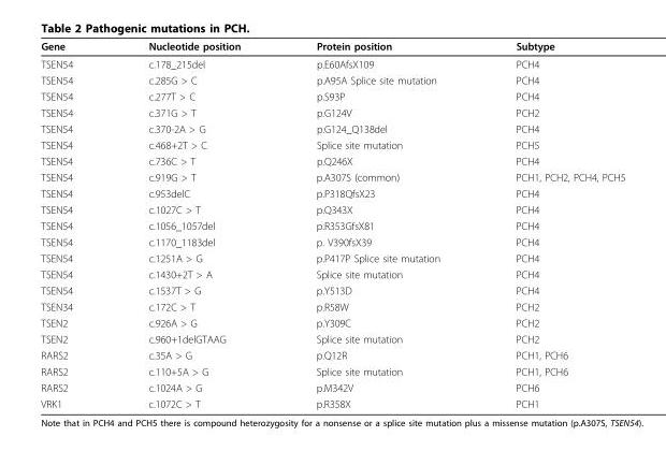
<table><thead><tr><td>Gene</td><td>Nucleotide position</td><td>Protein position</td><td>Subtype</td></tr></thead><tbody><tr><td>TSEN54</td><td>c.178_215del</td><td>p.E60AfsX109</td><td>PCH4</td></tr><tr><td>TSEN54</td><td>c.285G &gt; C</td><td>p.A95A Splice site mutation</td><td>PCH4</td></tr><tr><td>TSEN54</td><td>c.277T &gt; C</td><td>p.S93P</td><td>PCH4</td></tr><tr><td>TSEN54</td><td>c.371G &gt; T</td><td>p.G124V</td><td>PCH2</td></tr><tr><td>TSEN54</td><td>c.370-2A &gt; G</td><td>p.G124_Q138del</td><td>PCH4</td></tr><tr><td>TSEN54</td><td>c.468+2T &gt; C</td><td>Splice site mutation</td><td>PCH5</td></tr><tr><td>TSEN54</td><td>c.736C &gt; T</td><td>p.Q246X</td><td>PCH4</td></tr><tr><td>TSEN54</td><td>c.919G &gt; T</td><td>p.A307S (common)</td><td>PCH1, PCH2, PCH4, PCH5</td></tr><tr><td>TSEN54</td><td>c.953delC</td><td>p.P318QfsX23</td><td>PCH4</td></tr><tr><td>TSEN54</td><td>c.1027C &gt; T</td><td>p.Q343X</td><td>PCH4</td></tr><tr><td>TSEN54</td><td>c.1056_1057del</td><td>p.R353GfsX81</td><td>PCH4</td></tr><tr><td>TSEN54</td><td>c.1170_1183del</td><td>p. V390fsX39</td><td>PCH4</td></tr><tr><td>TSEN54</td><td>c.1251A &gt; G</td><td>p.P417P Splice site mutation</td><td>PCH4</td></tr><tr><td>TSEN54</td><td>c.1430+2T &gt; A</td><td>Splice site mutation</td><td>PCH4</td></tr><tr><td>TSEN54</td><td>c.1537T &gt; G</td><td>p.Y513D</td><td>PCH4</td></tr><tr><td>TSEN34</td><td>c.172C &gt; T</td><td>p.R58W</td><td>PCH2</td></tr><tr><td>TSEN2</td><td>c.926A &gt; G</td><td>p.Y309C</td><td>PCH2</td></tr><tr><td>TSEN2</td><td>c.960+1delGTAAG</td><td>Splice site mutation</td><td>PCH2</td></tr><tr><td>RARS2</td><td>c.35A &gt; G</td><td>p.Q12R</td><td>PCH1, PCH6</td></tr><tr><td>RARS2</td><td>c.110+5A &gt; G</td><td>Splice site mutation</td><td>PCH1, PCH6</td></tr><tr><td>RARS2</td><td>c.1024A &gt; G</td><td>p.M342V</td><td>PCH6</td></tr><tr><td>VRK1</td><td>c.1072C &gt; T</td><td>p.R358X</td><td>PCH1</td></tr></tbody></table>